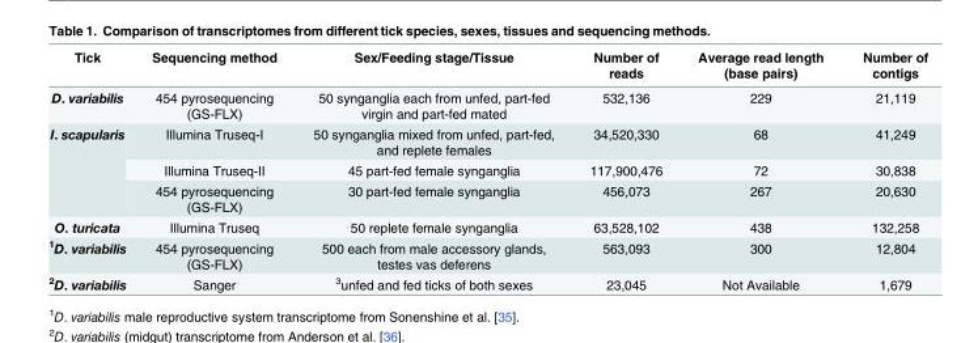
<table><thead><tr><td>Tick</td><td>Sequencing method</td><td>Sex/Feeding stage/Tissue</td><td>Number of reads</td><td>Average read length (base pairs)</td><td>Number of contigs</td></tr></thead><tbody><tr><td>D. variabilis</td><td>454 pyrosequencing (GS-FLX)</td><td>50 synganglia each from unfed, part-fed virgin and part-fed mated</td><td>532,136</td><td>229</td><td>21,119</td></tr><tr><td rowspan="3">I. scapularis</td><td>Illumina Truseq-I</td><td>50 synganglia mixed from unfed, part-fed, and replete females</td><td>34,520,330</td><td>68</td><td>41,249</td></tr><tr><td>Illumina Truseq-II</td><td>45 part-fed female synganglia</td><td>117,900,476</td><td>72</td><td>30,838</td></tr><tr><td>454 pyrosequencing (GS-FLX)</td><td>30 part-fed female synganglia</td><td>456,073</td><td>267</td><td>20,630</td></tr><tr><td>O. turicata</td><td>Illumina Truseq</td><td>50 replete female synganglia</td><td>63,528,102</td><td>438</td><td>132,258</td></tr><tr><td><sup>1</sup>D. variabilis</td><td>454 pyrosequencing (GS-FLX)</td><td>500 each from male accessory glands, testes vas deferens</td><td>563,093</td><td>300</td><td>12,804</td></tr><tr><td><sup>2</sup>D. variabilis</td><td>Sanger</td><td><sup>3</sup>unfed and fed ticks of both sexes</td><td>23,045</td><td>Not Available</td><td>1,679</td></tr></tbody></table>